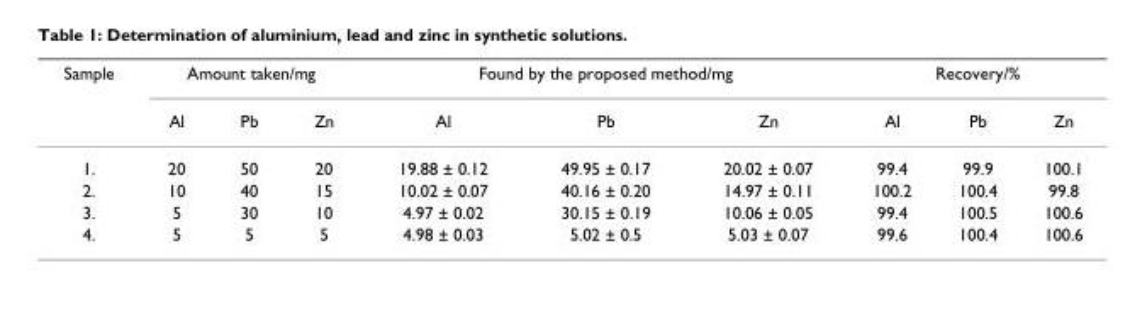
<table><thead><tr><td rowspan="2">Sample</td><td colspan="3">Amount taken/mg</td><td colspan="3">Found by the proposed method/mg</td><td colspan="3">Recovery/%</td></tr><tr><td>Al</td><td>Pb</td><td>Zn</td><td>Al</td><td>Pb</td><td>Zn</td><td>Al</td><td>Pb</td><td>Zn</td></tr></thead><tbody><tr><td>1.</td><td>20</td><td>50</td><td>20</td><td>19.88 ± 0.12</td><td>49.95 ± 0.17</td><td>20.02 ± 0.07</td><td>99.4</td><td>99.9</td><td>100.1</td></tr><tr><td>2.</td><td>10</td><td>40</td><td>15</td><td>10.02 ± 0.07</td><td>40.16 ± 0.20</td><td>14.97 ± 0.11</td><td>100.2</td><td>100.4</td><td>99.8</td></tr><tr><td>3.</td><td>5</td><td>30</td><td>10</td><td>4.97 ± 0.02</td><td>30.15 ± 0.19</td><td>10.06 ± 0.05</td><td>99.4</td><td>100.5</td><td>100.6</td></tr><tr><td>4.</td><td>5</td><td>5</td><td>5</td><td>4.98 ± 0.03</td><td>5.02 ± 0.5</td><td>5.03 ± 0.07</td><td>99.6</td><td>100.4</td><td>100.6</td></tr></tbody></table>